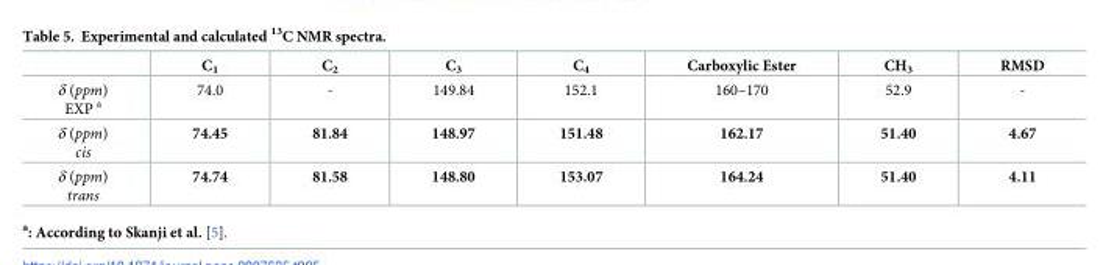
<table><thead><tr><td></td><td>C<sub>1</sub></td><td>C<sub>2</sub></td><td>C<sub>3</sub></td><td>C<sub>4</sub></td><td>Carboxylic Ester</td><td>CH<sub>3</sub></td><td>RMSD</td></tr></thead><tbody><tr><td>δ (ppm) EXP <sup>a</sup></td><td>74.0</td><td>-</td><td>149.84</td><td>152.1</td><td>160–170</td><td>52.9</td><td>-</td></tr><tr><td>δ (ppm) cis</td><td>74.45</td><td>81.84</td><td>148.97</td><td>151.48</td><td>162.17</td><td>51.40</td><td>4.67</td></tr><tr><td>δ (ppm) trans</td><td>74.74</td><td>81.58</td><td>148.80</td><td>153.07</td><td>164.24</td><td>51.40</td><td>4.11</td></tr></tbody></table>